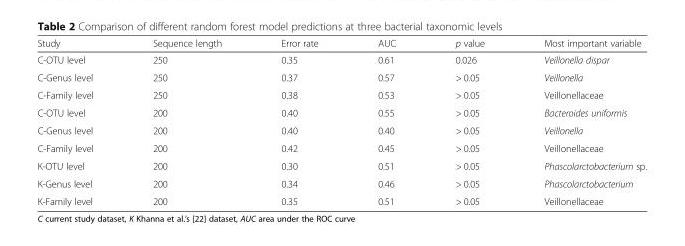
<table><thead><tr><td>Study</td><td>Sequence length</td><td>Error rate</td><td>AUC</td><td>p value</td><td>Most important variable</td></tr></thead><tbody><tr><td>C-OTU level</td><td>250</td><td>0.35</td><td>0.61</td><td>0.026</td><td>Veillonella dispar</td></tr><tr><td>C-Genus level</td><td>250</td><td>0.37</td><td>0.57</td><td>&gt; 0.05</td><td>Veillonella</td></tr><tr><td>C-Family level</td><td>250</td><td>0.38</td><td>0.53</td><td>&gt; 0.05</td><td>Veillonellaceae</td></tr><tr><td>C-OTU level</td><td>200</td><td>0.40</td><td>0.55</td><td>&gt; 0.05</td><td>Bacteroides uniformis</td></tr><tr><td>C-Genus level</td><td>200</td><td>0.40</td><td>0.40</td><td>&gt; 0.05</td><td>Veillonella</td></tr><tr><td>C-Family level</td><td>200</td><td>0.42</td><td>0.45</td><td>&gt; 0.05</td><td>Veillonellaceae</td></tr><tr><td>K-OTU level</td><td>200</td><td>0.30</td><td>0.51</td><td>&gt; 0.05</td><td>Phascolarctobacterium sp.</td></tr><tr><td>K-Genus level</td><td>200</td><td>0.34</td><td>0.46</td><td>&gt; 0.05</td><td>Phascolarctobacterium</td></tr><tr><td>K-Family level</td><td>200</td><td>0.35</td><td>0.51</td><td>&gt; 0.05</td><td>Veillonellaceae</td></tr></tbody></table>